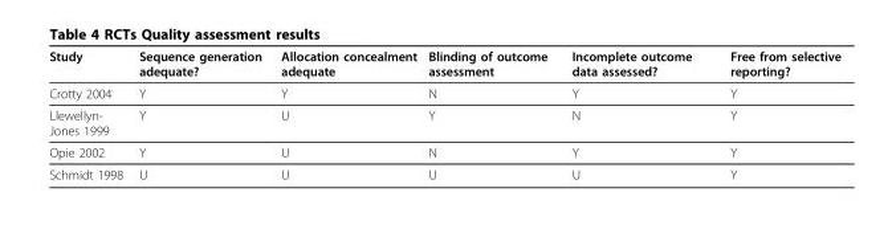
<table><thead><tr><td>Study</td><td>Sequence generation adequate?</td><td>Allocation concealment adequate</td><td>Blinding of outcome assessment</td><td>Incomplete outcome data assessed?</td><td>Free from selective reporting?</td></tr></thead><tbody><tr><td>Crotty 2004</td><td>Y</td><td>Y</td><td>N</td><td>Y</td><td>Y</td></tr><tr><td>Llewellyn- Jones 1999</td><td>Y</td><td>U</td><td>Y</td><td>N</td><td>Y</td></tr><tr><td>Opie 2002</td><td>Y</td><td>U</td><td>N</td><td>Y</td><td>Y</td></tr><tr><td>Schmidt 1998</td><td>U</td><td>U</td><td>U</td><td>U</td><td>Y</td></tr></tbody></table>